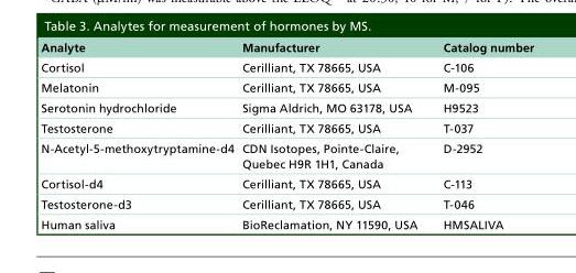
<table><thead><tr><td>Analyte</td><td>Manufacturer</td><td>Catalog number</td></tr></thead><tbody><tr><td>Cortisol</td><td>Cerilliant, TX 78665, USA</td><td>C-106</td></tr><tr><td>Melatonin</td><td>Cerilliant, TX 78665, USA</td><td>M-095</td></tr><tr><td>Serotonin hydrochloride</td><td>Sigma Aldrich, MO 63178, USA</td><td>H9523</td></tr><tr><td>Testosterone</td><td>Cerilliant, TX 78665, USA</td><td>T-037</td></tr><tr><td>N-Acetyl-5-methoxytryptamine-d4</td><td>CDN Isotopes, Pointe-Claire, Quebec H9R 1H1, Canada</td><td>D-2952</td></tr><tr><td>Cortisol-d4</td><td>Cerilliant, TX 78665, USA</td><td>C-113</td></tr><tr><td>Testosterone-d3</td><td>Cerilliant, TX 78665, USA</td><td>T-046</td></tr><tr><td>Human saliva</td><td>BioReclamation, NY 11590, USA</td><td>HMSALIVA</td></tr></tbody></table>